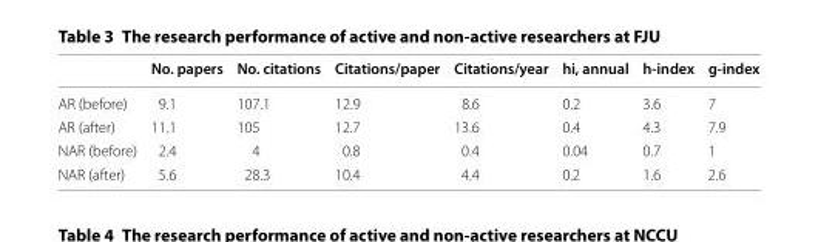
<table><thead><tr><td></td><td>No. papers</td><td>No. citations</td><td>Citations/paper</td><td>Citations/year</td><td>hi, annual</td><td>h-index</td><td>g-index</td></tr></thead><tbody><tr><td>AR (before)</td><td>9.1</td><td>107.1</td><td>12.9</td><td>8.6</td><td>0.2</td><td>3.6</td><td>7</td></tr><tr><td>AR (after)</td><td>11.1</td><td>105</td><td>12.7</td><td>13.6</td><td>0.4</td><td>4.3</td><td>7.9</td></tr><tr><td>NAR (before)</td><td>2.4</td><td>4</td><td>0.8</td><td>0.4</td><td>0.04</td><td>0.7</td><td>1</td></tr><tr><td>NAR (after)</td><td>5.6</td><td>28.3</td><td>10.4</td><td>4.4</td><td>0.2</td><td>1.6</td><td>2.6</td></tr></tbody></table>